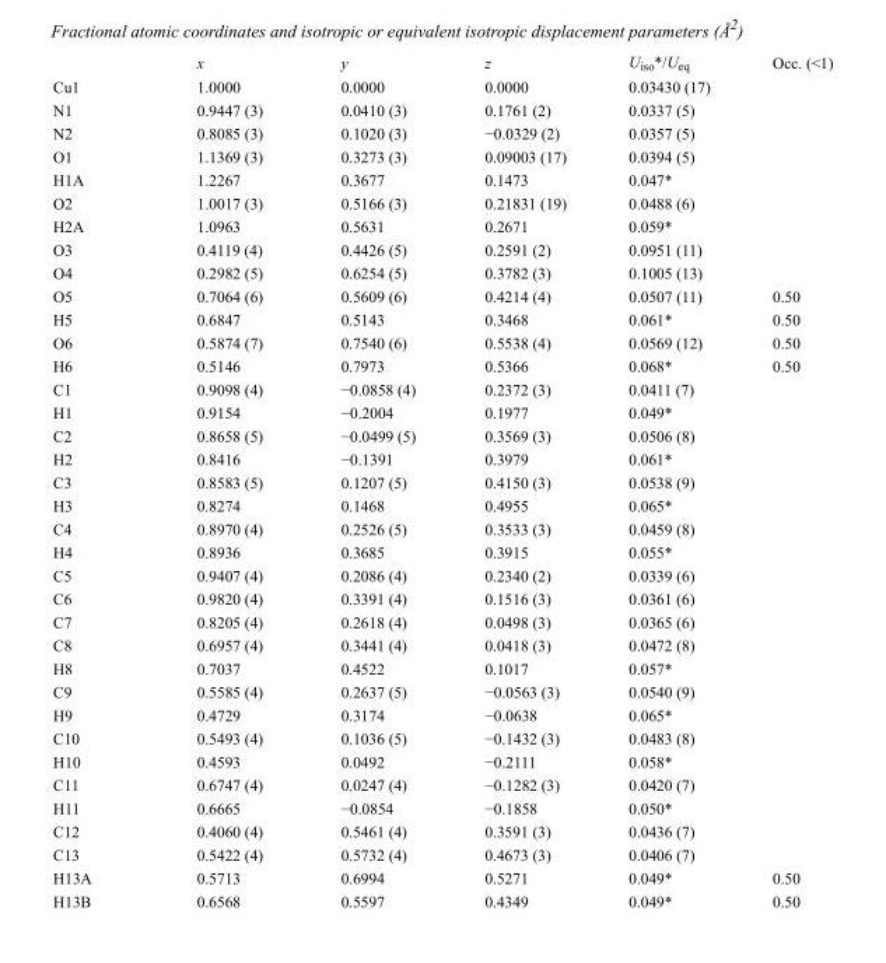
<table><thead><tr><td></td><td>x</td><td>y</td><td>z</td><td>U<sub>iso</sub>*/U<sub>eq</sub></td><td>Occ. (&lt;1)</td></tr></thead><tbody><tr><td>Cu1</td><td>1.0000</td><td>0.0000</td><td>0.0000</td><td>0.03430 (17)</td><td></td></tr><tr><td>N1</td><td>0.9447 (3)</td><td>0.0410 (3)</td><td>0.1761 (2)</td><td>0.0337 (5)</td><td></td></tr><tr><td>N2</td><td>0.8085 (3)</td><td>0.1020 (3)</td><td>−0.0329 (2)</td><td>0.0357 (5)</td><td></td></tr><tr><td>O1</td><td>1.1369 (3)</td><td>0.3273 (3)</td><td>0.09003 (17)</td><td>0.0394 (5)</td><td></td></tr><tr><td>H1A</td><td>1.2267</td><td>0.3677</td><td>0.1473</td><td>0.047*</td><td></td></tr><tr><td>O2</td><td>1.0017 (3)</td><td>0.5166 (3)</td><td>0.21831 (19)</td><td>0.0488 (6)</td><td></td></tr><tr><td>H2A</td><td>1.0963</td><td>0.5631</td><td>0.2671</td><td>0.059*</td><td></td></tr><tr><td>O3</td><td>0.4119 (4)</td><td>0.4426 (5)</td><td>0.2591 (2)</td><td>0.0951 (11)</td><td></td></tr><tr><td>O4</td><td>0.2982 (5)</td><td>0.6254 (5)</td><td>0.3782 (3)</td><td>0.1005 (13)</td><td></td></tr><tr><td>O5</td><td>0.7064 (6)</td><td>0.5609 (6)</td><td>0.4214 (4)</td><td>0.0507 (11)</td><td>0.50</td></tr><tr><td>H5</td><td>0.6847</td><td>0.5143</td><td>0.3468</td><td>0.061*</td><td>0.50</td></tr><tr><td>O6</td><td>0.5874 (7)</td><td>0.7540 (6)</td><td>0.5538 (4)</td><td>0.0569 (12)</td><td>0.50</td></tr><tr><td>H6</td><td>0.5146</td><td>0.7973</td><td>0.5366</td><td>0.068*</td><td>0.50</td></tr><tr><td>C1</td><td>0.9098 (4)</td><td>−0.0858 (4)</td><td>0.2372 (3)</td><td>0.0411 (7)</td><td></td></tr><tr><td>H1</td><td>0.9154</td><td>−0.2004</td><td>0.1977</td><td>0.049*</td><td></td></tr><tr><td>C2</td><td>0.8658 (5)</td><td>−0.0499 (5)</td><td>0.3569 (3)</td><td>0.0506 (8)</td><td></td></tr><tr><td>H2</td><td>0.8416</td><td>−0.1391</td><td>0.3979</td><td>0.061*</td><td></td></tr><tr><td>C3</td><td>0.8583 (5)</td><td>0.1207 (5)</td><td>0.4150 (3)</td><td>0.0538 (9)</td><td></td></tr><tr><td>H3</td><td>0.8274</td><td>0.1468</td><td>0.4955</td><td>0.065*</td><td></td></tr><tr><td>C4</td><td>0.8970 (4)</td><td>0.2526 (5)</td><td>0.3533 (3)</td><td>0.0459 (8)</td><td></td></tr><tr><td>H4</td><td>0.8936</td><td>0.3685</td><td>0.3915</td><td>0.055*</td><td></td></tr><tr><td>C5</td><td>0.9407 (4)</td><td>0.2086 (4)</td><td>0.2340 (2)</td><td>0.0339 (6)</td><td></td></tr><tr><td>C6</td><td>0.9820 (4)</td><td>0.3391 (4)</td><td>0.1516 (3)</td><td>0.0361 (6)</td><td></td></tr><tr><td>C7</td><td>0.8205 (4)</td><td>0.2618 (4)</td><td>0.0498 (3)</td><td>0.0365 (6)</td><td></td></tr><tr><td>C8</td><td>0.6957 (4)</td><td>0.3441 (4)</td><td>0.0418 (3)</td><td>0.0472 (8)</td><td></td></tr><tr><td>H8</td><td>0.7037</td><td>0.4522</td><td>0.1017</td><td>0.057*</td><td></td></tr><tr><td>C9</td><td>0.5585 (4)</td><td>0.2637 (5)</td><td>−0.0563 (3)</td><td>0.0540 (9)</td><td></td></tr><tr><td>H9</td><td>0.4729</td><td>0.3174</td><td>−0.0638</td><td>0.065*</td><td></td></tr><tr><td>C10</td><td>0.5493 (4)</td><td>0.1036 (5)</td><td>−0.1432 (3)</td><td>0.0483 (8)</td><td></td></tr><tr><td>H10</td><td>0.4593</td><td>0.0492</td><td>−0.2111</td><td>0.058*</td><td></td></tr><tr><td>C11</td><td>0.6747 (4)</td><td>0.0247 (4)</td><td>−0.1282 (3)</td><td>0.0420 (7)</td><td></td></tr><tr><td>H11</td><td>0.6665</td><td>−0.0854</td><td>−0.1858</td><td>0.050*</td><td></td></tr><tr><td>C12</td><td>0.4060 (4)</td><td>0.5461 (4)</td><td>0.3591 (3)</td><td>0.0436 (7)</td><td></td></tr><tr><td>C13</td><td>0.5422 (4)</td><td>0.5732 (4)</td><td>0.4673 (3)</td><td>0.0406 (7)</td><td></td></tr><tr><td>H13A</td><td>0.5713</td><td>0.6994</td><td>0.5271</td><td>0.049*</td><td>0.50</td></tr><tr><td>H13B</td><td>0.6568</td><td>0.5597</td><td>0.4349</td><td>0.049*</td><td>0.50</td></tr></tbody></table>